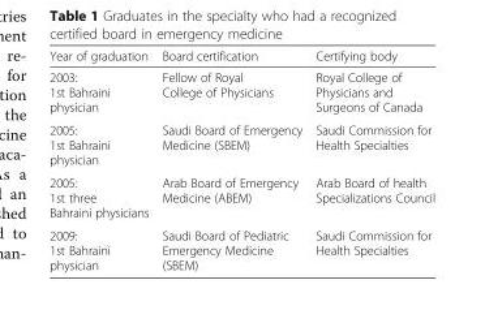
<table><thead><tr><td>Year of graduation</td><td>Board certification</td><td>Certifying body</td></tr></thead><tbody><tr><td>2003: 1st Bahraini physician</td><td>Fellow of Royal College of Physicians</td><td>Royal College of Physicians and Surgeons of Canada</td></tr><tr><td>2005: 1st Bahraini physician</td><td>Saudi Board of Emergency Medicine (SBEM)</td><td>Saudi Commission for Health Specialties</td></tr><tr><td>2005: 1st three Bahraini physicians</td><td>Arab Board of Emergency Medicine (ABEM)</td><td>Arab Board of health Specializations Council</td></tr><tr><td>2009: 1st Bahraini physician</td><td>Saudi Board of Pediatric Emergency Medicine (SBEM)</td><td>Saudi Commission for Health Specialties</td></tr></tbody></table>